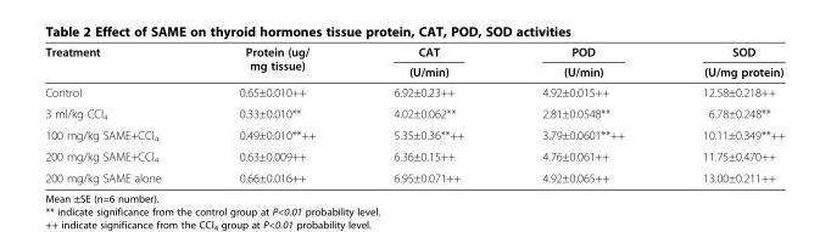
<table><thead><tr><td rowspan="2">Treatment</td><td rowspan="2">Protein (ug/ mg tissue)</td><td rowspan="2">CAT (U/min)</td><td rowspan="2">POD (U/min)</td><td rowspan="2">SOD (U/mg protein)</td></tr><tr></tr></thead><tbody><tr><td>Control</td><td>0.65±0.010++</td><td>6.92±0.23++</td><td>4.92±0.015++</td><td>12.58±0.218++</td></tr><tr><td>3 ml/kg CCl<sub>4</sub></td><td>0.33±0.010**</td><td>4.02±0.062**</td><td>2.81±0.0548**</td><td>6.78±0.248**</td></tr><tr><td>100 mg/kg SAME+CCl<sub>4</sub></td><td>0.49±0.010**++</td><td>5.35±0.36**++</td><td>3.79±0.0601**++</td><td>10.11±0.349**++</td></tr><tr><td>200 mg/kg SAME+CCl<sub>4</sub></td><td>0.63±0.009++</td><td>6.36±0.15++</td><td>4.76±0.061++</td><td>11.75±0.470++</td></tr><tr><td>200 mg/kg SAME alone</td><td>0.66±0.016++</td><td>6.95±0.071++</td><td>4.92±0.065++</td><td>13.00±0.211++</td></tr></tbody></table>